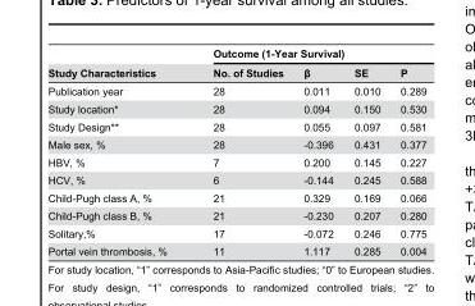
<table><thead><tr><td rowspan="2">Study Characteristics</td><td colspan="4">Outcome (1-Year Survival)</td></tr><tr><td>No. of Studies</td><td>β</td><td>SE</td><td>P</td></tr></thead><tbody><tr><td>Publication year</td><td>28</td><td>0.011</td><td>0.010</td><td>0.289</td></tr><tr><td>Study location*</td><td>28</td><td>0.094</td><td>0.150</td><td>0.530</td></tr><tr><td>Study Design**</td><td>28</td><td>0.055</td><td>0.097</td><td>0.581</td></tr><tr><td>Male sex, %</td><td>28</td><td>-0.396</td><td>0.431</td><td>0.377</td></tr><tr><td>HBV, %</td><td>7</td><td>0.200</td><td>0.145</td><td>0.227</td></tr><tr><td>HCV, %</td><td>6</td><td>-0.144</td><td>0.245</td><td>0.588</td></tr><tr><td>Child-Pugh class A, %</td><td>21</td><td>0.329</td><td>0.169</td><td>0.066</td></tr><tr><td>Child-Pugh class B, %</td><td>21</td><td>-0.230</td><td>0.207</td><td>0.280</td></tr><tr><td>Solitary,%</td><td>17</td><td>-0.072</td><td>0.246</td><td>0.775</td></tr><tr><td>Portal vein thrombosis, %</td><td>11</td><td>1.117</td><td>0.285</td><td>0.004</td></tr></tbody></table>